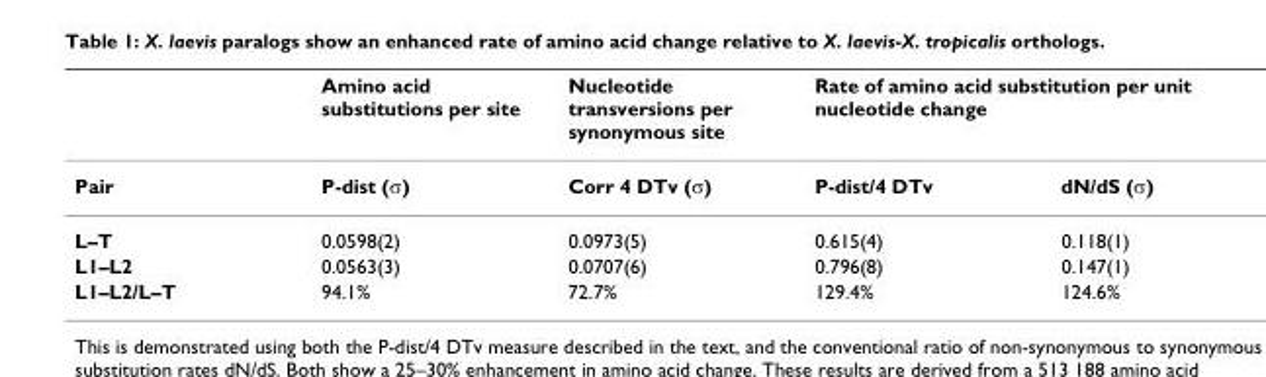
<table><thead><tr><td rowspan="2">Pair</td><td rowspan="2">Amino acid substitutions per site P-dist (σ)</td><td rowspan="2">Nucleotide transversions per synonymous site Corr 4 DTv (σ)</td><td colspan="2">Rate of amino acid substitution per unit nucleotide change</td></tr><tr><td>P-dist/4 DTv</td><td>dN/dS (σ)</td></tr></thead><tbody><tr><td>L–T</td><td>0.0598(2)</td><td>0.0973(5)</td><td>0.615(4)</td><td>0.118(1)</td></tr><tr><td>L1–L2</td><td>0.0563(3)</td><td>0.0707(6)</td><td>0.796(8)</td><td>0.147(1)</td></tr><tr><td>L1–L2/L–T</td><td>94.1%</td><td>72.7%</td><td>129.4%</td><td>124.6%</td></tr></tbody></table>